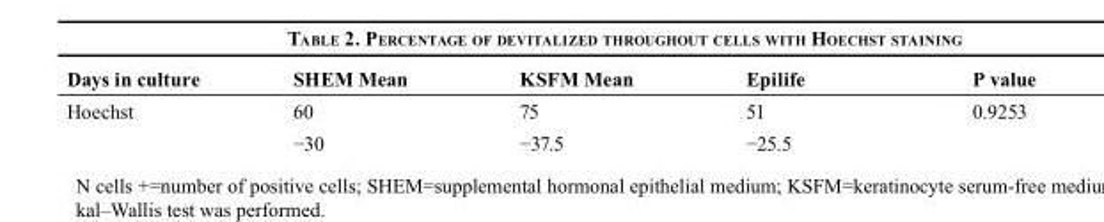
<table><thead><tr><td>Days in culture</td><td>SHEM Mean</td><td>KSFM Mean</td><td>Epilife</td><td>P value</td></tr></thead><tbody><tr><td rowspan="2">Hoechst</td><td>60</td><td>75</td><td>51</td><td>0.9253</td></tr><tr><td>−30</td><td>−37.5</td><td>−25.5</td><td></td></tr></tbody></table>